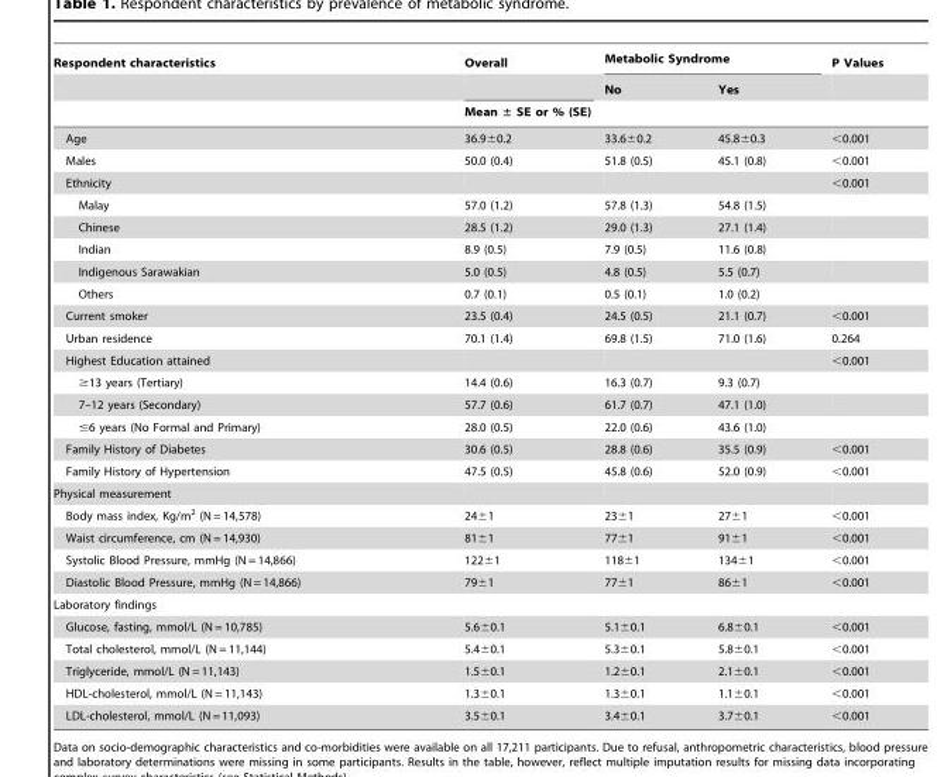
<table><thead><tr><td rowspan="3">Respondent characteristics</td><td rowspan="2">Overall</td><td colspan="2">Metabolic Syndrome</td><td rowspan="3">P Values</td></tr><tr><td>No</td><td>Yes</td></tr><tr><td colspan="3">Mean ± SE or % (SE)</td></tr></thead><tbody><tr><td>Age</td><td>36.9±0.2</td><td>33.6±0.2</td><td>45.8±0.3</td><td>&lt;0.001</td></tr><tr><td>Males</td><td>50.0 (0.4)</td><td>51.8 (0.5)</td><td>45.1 (0.8)</td><td>&lt;0.001</td></tr><tr><td>Ethnicity</td><td></td><td></td><td></td><td>&lt;0.001</td></tr><tr><td>Malay</td><td>57.0 (1.2)</td><td>57.8 (1.3)</td><td>54.8 (1.5)</td><td></td></tr><tr><td>Chinese</td><td>28.5 (1.2)</td><td>29.0 (1.3)</td><td>27.1 (1.4)</td><td></td></tr><tr><td>Indian</td><td>8.9 (0.5)</td><td>7.9 (0.5)</td><td>11.6 (0.8)</td><td></td></tr><tr><td>Indigenous Sarawakian</td><td>5.0 (0.5)</td><td>4.8 (0.5)</td><td>5.5 (0.7)</td><td></td></tr><tr><td>Others</td><td>0.7 (0.1)</td><td>0.5 (0.1)</td><td>1.0 (0.2)</td><td></td></tr><tr><td>Current smoker</td><td>23.5 (0.4)</td><td>24.5 (0.5)</td><td>21.1 (0.7)</td><td>&lt;0.001</td></tr><tr><td>Urban residence</td><td>70.1 (1.4)</td><td>69.8 (1.5)</td><td>71.0 (1.6)</td><td>0.264</td></tr><tr><td>Highest Education attained</td><td></td><td></td><td></td><td>&lt;0.001</td></tr><tr><td>≥13 years (Tertiary)</td><td>14.4 (0.6)</td><td>16.3 (0.7)</td><td>9.3 (0.7)</td><td></td></tr><tr><td>7–12 years (Secondary)</td><td>57.7 (0.6)</td><td>61.7 (0.7)</td><td>47.1 (1.0)</td><td></td></tr><tr><td>≤6 years (No Formal and Primary)</td><td>28.0 (0.5)</td><td>22.0 (0.6)</td><td>43.6 (1.0)</td><td></td></tr><tr><td>Family History of Diabetes</td><td>30.6 (0.5)</td><td>28.8 (0.6)</td><td>35.5 (0.9)</td><td>&lt;0.001</td></tr><tr><td>Family History of Hypertension</td><td>47.5 (0.5)</td><td>45.8 (0.6)</td><td>52.0 (0.9)</td><td>&lt;0.001</td></tr><tr><td colspan="5">Physical measurement</td></tr><tr><td>Body mass index, Kg/m<sup>2</sup> (N = 14,578)</td><td>24±1</td><td>23±1</td><td>27±1</td><td>&lt;0.001</td></tr><tr><td>Waist circumference, cm (N = 14,930)</td><td>81±1</td><td>77±1</td><td>91±1</td><td>&lt;0.001</td></tr><tr><td>Systolic Blood Pressure, mmHg (N = 14,866)</td><td>122±1</td><td>118±1</td><td>134±1</td><td>&lt;0.001</td></tr><tr><td>Diastolic Blood Pressure, mmHg (N = 14,866)</td><td>79±1</td><td>77±1</td><td>86±1</td><td>&lt;0.001</td></tr><tr><td colspan="5">Laboratory findings</td></tr><tr><td>Glucose, fasting, mmol/L (N = 10,785)</td><td>5.6±0.1</td><td>5.1±0.1</td><td>6.8±0.1</td><td>&lt;0.001</td></tr><tr><td>Total cholesterol, mmol/L (N = 11,144)</td><td>5.4±0.1</td><td>5.3±0.1</td><td>5.8±0.1</td><td>&lt;0.001</td></tr><tr><td>Triglyceride, mmol/L (N = 11,143)</td><td>1.5±0.1</td><td>1.2±0.1</td><td>2.1±0.1</td><td>&lt;0.001</td></tr><tr><td>HDL-cholesterol, mmol/L (N = 11,143)</td><td>1.3±0.1</td><td>1.3±0.1</td><td>1.1±0.1</td><td>&lt;0.001</td></tr><tr><td>LDL-cholesterol, mmol/L (N = 11,093)</td><td>3.5±0.1</td><td>3.4±0.1</td><td>3.7±0.1</td><td>&lt;0.001</td></tr></tbody></table>